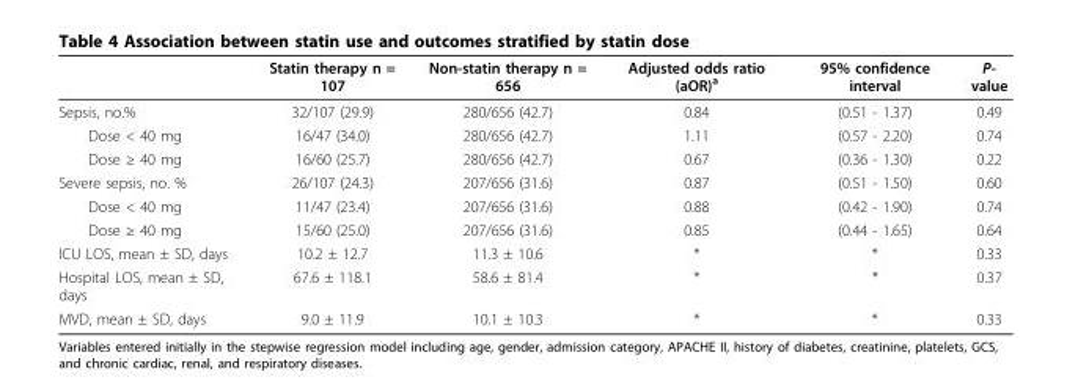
<table><thead><tr><td></td><td>Statin therapy n = 107</td><td>Non-statin therapy n = 656</td><td>Adjusted odds ratio (aOR)<sup>a</sup></td><td>95% confidence interval</td><td>P- value</td></tr></thead><tbody><tr><td>Sepsis, no.%</td><td>32/107 (29.9)</td><td>280/656 (42.7)</td><td>0.84</td><td>(0.51 - 1.37)</td><td>0.49</td></tr><tr><td>Dose &lt; 40 mg</td><td>16/47 (34.0)</td><td>280/656 (42.7)</td><td>1.11</td><td>(0.57 - 2.20)</td><td>0.74</td></tr><tr><td>Dose ≥ 40 mg</td><td>16/60 (25.7)</td><td>280/656 (42.7)</td><td>0.67</td><td>(0.36 - 1.30)</td><td>0.22</td></tr><tr><td>Severe sepsis, no. %</td><td>26/107 (24.3)</td><td>207/656 (31.6)</td><td>0.87</td><td>(0.51 - 1.50)</td><td>0.60</td></tr><tr><td>Dose &lt; 40 mg</td><td>11/47 (23.4)</td><td>207/656 (31.6)</td><td>0.88</td><td>(0.42 - 1.90)</td><td>0.74</td></tr><tr><td>Dose ≥ 40 mg</td><td>15/60 (25.0)</td><td>207/656 (31.6)</td><td>0.85</td><td>(0.44 - 1.65)</td><td>0.64</td></tr><tr><td>ICU LOS, mean ± SD, days</td><td>10.2 ± 12.7</td><td>11.3 ± 10.6</td><td>*</td><td>*</td><td>0.33</td></tr><tr><td>Hospital LOS, mean ± SD, days</td><td>67.6 ± 118.1</td><td>58.6 ± 81.4</td><td>*</td><td>*</td><td>0.37</td></tr><tr><td>MVD, mean ± SD, days</td><td>9.0 ± 11.9</td><td>10.1 ± 10.3</td><td>*</td><td>*</td><td>0.33</td></tr></tbody></table>